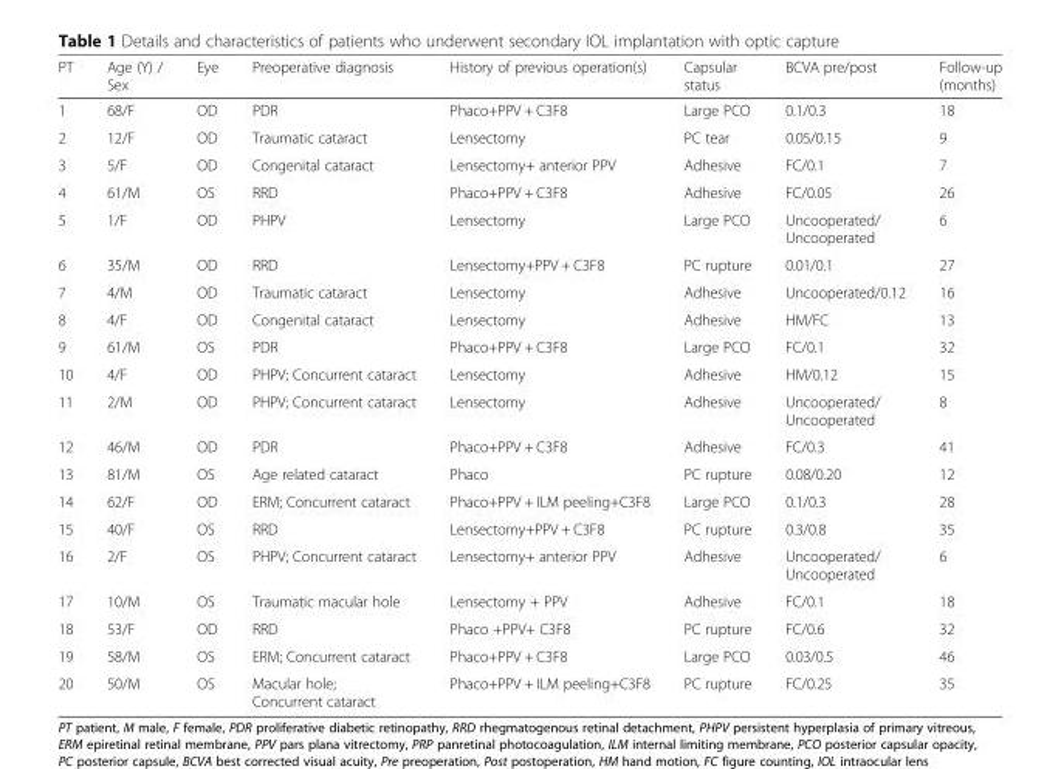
<table><thead><tr><td>PT</td><td>Age (Y) / Sex</td><td>Eye</td><td>Preoperative diagnosis</td><td>History of previous operation(s)</td><td>Capsular status</td><td>BCVA pre/post</td><td>Follow-up (months)</td></tr></thead><tbody><tr><td>1</td><td>68/F</td><td>OD</td><td>PDR</td><td>Phaco+PPV + C3F8</td><td>Large PCO</td><td>0.1/0.3</td><td>18</td></tr><tr><td>2</td><td>12/F</td><td>OD</td><td>Traumatic cataract</td><td>Lensectomy</td><td>PC tear</td><td>0.05/0.15</td><td>9</td></tr><tr><td>3</td><td>5/F</td><td>OD</td><td>Congenital cataract</td><td>Lensectomy+ anterior PPV</td><td>Adhesive</td><td>FC/0.1</td><td>7</td></tr><tr><td>4</td><td>61/M</td><td>OS</td><td>RRD</td><td>Phaco+PPV + C3F8</td><td>Adhesive</td><td>FC/0.05</td><td>26</td></tr><tr><td>5</td><td>1/F</td><td>OD</td><td>PHPV</td><td>Lensectomy</td><td>Large PCO</td><td>Uncooperated/ Uncooperated</td><td>6</td></tr><tr><td>6</td><td>35/M</td><td>OD</td><td>RRD</td><td>Lensectomy+PPV + C3F8</td><td>PC rupture</td><td>0.01/0.1</td><td>27</td></tr><tr><td>7</td><td>4/M</td><td>OD</td><td>Traumatic cataract</td><td>Lensectomy</td><td>Adhesive</td><td>Uncooperated/0.12</td><td>16</td></tr><tr><td>8</td><td>4/F</td><td>OD</td><td>Congenital cataract</td><td>Lensectomy</td><td>Adhesive</td><td>HM/FC</td><td>13</td></tr><tr><td>9</td><td>61/M</td><td>OS</td><td>PDR</td><td>Phaco+PPV + C3F8</td><td>Large PCO</td><td>FC/0.1</td><td>32</td></tr><tr><td>10</td><td>4/F</td><td>OD</td><td>PHPV; Concurrent cataract</td><td>Lensectomy</td><td>Adhesive</td><td>HM/0.12</td><td>15</td></tr><tr><td>11</td><td>2/M</td><td>OD</td><td>PHPV; Concurrent cataract</td><td>Lensectomy</td><td>Adhesive</td><td>Uncooperated/ Uncooperated</td><td>8</td></tr><tr><td>12</td><td>46/M</td><td>OD</td><td>PDR</td><td>Phaco+PPV + C3F8</td><td>Adhesive</td><td>FC/0.3</td><td>41</td></tr><tr><td>13</td><td>81/M</td><td>OS</td><td>Age related cataract</td><td>Phaco</td><td>PC rupture</td><td>0.08/0.20</td><td>12</td></tr><tr><td>14</td><td>62/F</td><td>OD</td><td>ERM; Concurrent cataract</td><td>Phaco+PPV + ILM peeling+C3F8</td><td>Large PCO</td><td>0.1/0.3</td><td>28</td></tr><tr><td>15</td><td>40/F</td><td>OS</td><td>RRD</td><td>Lensectomy+PPV + C3F8</td><td>PC rupture</td><td>0.3/0.8</td><td>35</td></tr><tr><td>16</td><td>2/F</td><td>OS</td><td>PHPV; Concurrent cataract</td><td>Lensectomy+ anterior PPV</td><td>Adhesive</td><td>Uncooperated/ Uncooperated</td><td>6</td></tr><tr><td>17</td><td>10/M</td><td>OS</td><td>Traumatic macular hole</td><td>Lensectomy + PPV</td><td>Adhesive</td><td>FC/0.1</td><td>18</td></tr><tr><td>18</td><td>53/F</td><td>OD</td><td>RRD</td><td>Phaco +PPV+ C3F8</td><td>PC rupture</td><td>FC/0.6</td><td>32</td></tr><tr><td>19</td><td>58/M</td><td>OS</td><td>ERM; Concurrent cataract</td><td>Phaco+PPV + C3F8</td><td>Large PCO</td><td>0.03/0.5</td><td>46</td></tr><tr><td>20</td><td>50/M</td><td>OS</td><td>Macular hole; Concurrent cataract</td><td>Phaco+PPV + ILM peeling+C3F8</td><td>PC rupture</td><td>FC/0.25</td><td>35</td></tr></tbody></table>